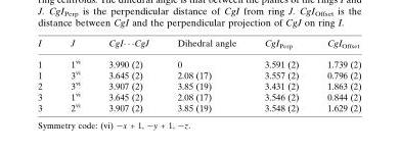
<table><thead><tr><td>I</td><td>J</td><td>CgI� � �CgJ</td><td>Dihedral angle</td><td>CgI<sub>Perp</sub></td><td>CgI<sub>Offset</sub></td></tr></thead><tbody><tr><td>1</td><td>1<sup>vi</sup></td><td>3.990 (2)</td><td>0</td><td>3.591 (2)</td><td>1.739 (2)</td></tr><tr><td>1</td><td>3<sup>vi</sup></td><td>3.645 (2)</td><td>2.08 (17)</td><td>3.557 (2)</td><td>0.796 (2)</td></tr><tr><td>2</td><td>3<sup>vi</sup></td><td>3.907 (2)</td><td>3.85 (19)</td><td>3.431 (2)</td><td>1.863 (2)</td></tr><tr><td>3</td><td>1<sup>vi</sup></td><td>3.645 (2)</td><td>2.08 (17)</td><td>3.546 (2)</td><td>0.844 (2)</td></tr><tr><td>3</td><td>2<sup>vi</sup></td><td>3.907 (2)</td><td>3.85 (19)</td><td>3.548 (2)</td><td>1.629 (2)</td></tr></tbody></table>